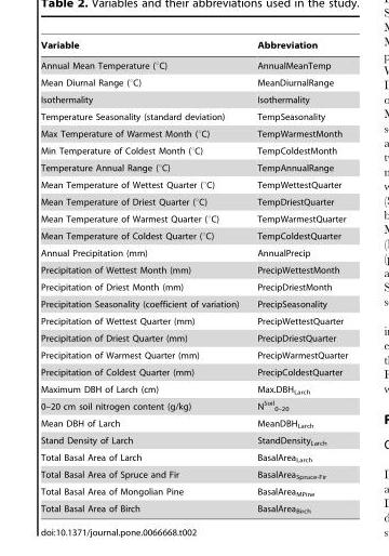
<table><thead><tr><td>Variable</td><td>Abbreviation</td></tr></thead><tbody><tr><td>Annual Mean Temperature (°C)</td><td>AnnualMeanTemp</td></tr><tr><td>Mean Diurnal Range (°C)</td><td>MeanDiurnalRange</td></tr><tr><td>Isothermality</td><td>Isothermality</td></tr><tr><td>Temperature Seasonality (standard deviation)</td><td>TempSeasonality</td></tr><tr><td>Max Temperature of Warmest Month (°C)</td><td>TempWarmestMonth</td></tr><tr><td>Min Temperature of Coldest Month (°C)</td><td>TempColdestMonth</td></tr><tr><td>Temperature Annual Range (°C)</td><td>TempAnnualRange</td></tr><tr><td>Mean Temperature of Wettest Quarter (°C)</td><td>TempWettestQuarter</td></tr><tr><td>Mean Temperature of Driest Quarter (°C)</td><td>TempDriestQuarter</td></tr><tr><td>Mean Temperature of Warmest Quarter (°C)</td><td>TempWarmestQuarter</td></tr><tr><td>Mean Temperature of Coldest Quarter (°C)</td><td>TempColdestQuarter</td></tr><tr><td>Annual Precipitation (mm)</td><td>AnnualPrecip</td></tr><tr><td>Precipitation of Wettest Month (mm)</td><td>PrecipWettestMonth</td></tr><tr><td>Precipitation of Driest Month (mm)</td><td>PrecipDriestMonth</td></tr><tr><td>Precipitation Seasonality (coefficient of variation)</td><td>PrecipSeasonality</td></tr><tr><td>Precipitation of Wettest Quarter (mm)</td><td>PrecipWettestQuarter</td></tr><tr><td>Precipitation of Driest Quarter (mm)</td><td>PrecipDriestQuarter</td></tr><tr><td>Precipitation of Warmest Quarter (mm)</td><td>PrecipWarmestQuarter</td></tr><tr><td>Precipitation of Coldest Quarter (mm)</td><td>PrecipColdestQuarter</td></tr><tr><td>Maximum DBH of Larch (cm)</td><td>Max.DBH<sub>Larch</sub></td></tr><tr><td>0–20 cm soil nitrogen content (g/kg)</td><td>N<sup>Soil</sup> <sub>0–20</sub></td></tr><tr><td>Mean DBH of Larch</td><td>MeanDBH<sub>Larch</sub></td></tr><tr><td>Stand Density of Larch</td><td>StandDensity<sub>Larch</sub></td></tr><tr><td>Total Basal Area of Larch</td><td>BasalArea<sub>Larch</sub></td></tr><tr><td>Total Basal Area of Spruce and Fir</td><td>BasalArea<sub>Spruce-Fir</sub></td></tr><tr><td>Total Basal Area of Mongolian Pine</td><td>BasalArea<sub>MPine</sub></td></tr><tr><td>Total Basal Area of Birch</td><td>BasalArea<sub>Birch</sub></td></tr></tbody></table>